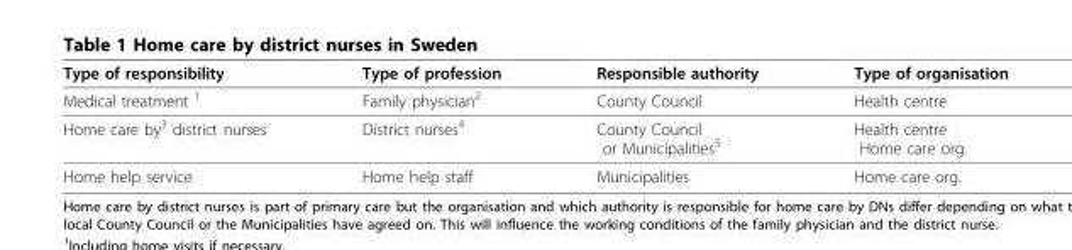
<table><thead><tr><td>Type of responsibility</td><td>Type of profession</td><td>Responsible authority</td><td>Type of organisation</td></tr></thead><tbody><tr><td>Medical treatment <sup>1</sup></td><td>Family physician<sup>2</sup></td><td>County Council</td><td>Health centre</td></tr><tr><td>Home care by<sup>3</sup> district nurses</td><td>District nurses<sup>4</sup></td><td>County Council or Municipalities<sup>5</sup></td><td>Health centre Home care org.</td></tr><tr><td>Home help service</td><td>Home help staff</td><td>Municipalities</td><td>Home care org.</td></tr></tbody></table>